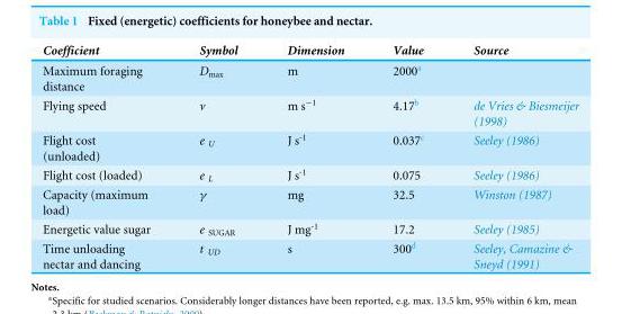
<table><thead><tr><td>Coefficient</td><td>Symbol</td><td>Dimension</td><td>Value</td><td>Source</td></tr></thead><tbody><tr><td>Maximum foraging distance</td><td>D<sub>max</sub></td><td>m</td><td>2000<sup>a</sup></td><td></td></tr><tr><td>Flying speed</td><td>v</td><td>m s<sup>−1</sup></td><td>4.17<sup>b</sup></td><td>de Vries &amp; Biesmeijer (1998)</td></tr><tr><td>Flight cost (unloaded)</td><td>e <sub>U</sub></td><td>J s<sup>-1</sup></td><td>0.037<sup>c</sup></td><td>Seeley (1986)</td></tr><tr><td>Flight cost (loaded)</td><td>e <sub>L</sub></td><td>J s<sup>-1</sup></td><td>0.075</td><td>Seeley (1986)</td></tr><tr><td>Capacity (maximum load)</td><td>γ</td><td>mg</td><td>32.5</td><td>Winston (1987)</td></tr><tr><td>Energetic value sugar</td><td>e <sub>SUGAR</sub></td><td>J mg<sup>-1</sup></td><td>17.2</td><td>Seeley (1985)</td></tr><tr><td>Time unloading nectar and dancing</td><td>t <sub>UD</sub></td><td>s</td><td>300<sup>d</sup></td><td>Seeley, Camazine &amp; Sneyd (1991)</td></tr></tbody></table>